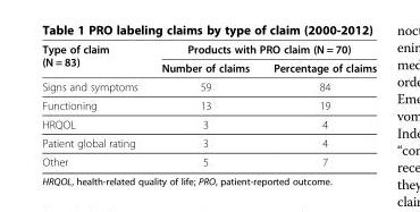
<table><thead><tr><td rowspan="2">Type of claim (N = 83)</td><td colspan="2">Products with PRO claim (N = 70)</td></tr><tr><td>Number of claims</td><td>Percentage of claims</td></tr></thead><tbody><tr><td>Signs and symptoms</td><td>59</td><td>84</td></tr><tr><td>Functioning</td><td>13</td><td>19</td></tr><tr><td>HRQOL</td><td>3</td><td>4</td></tr><tr><td>Patient global rating</td><td>3</td><td>4</td></tr><tr><td>Other</td><td>5</td><td>7</td></tr></tbody></table>